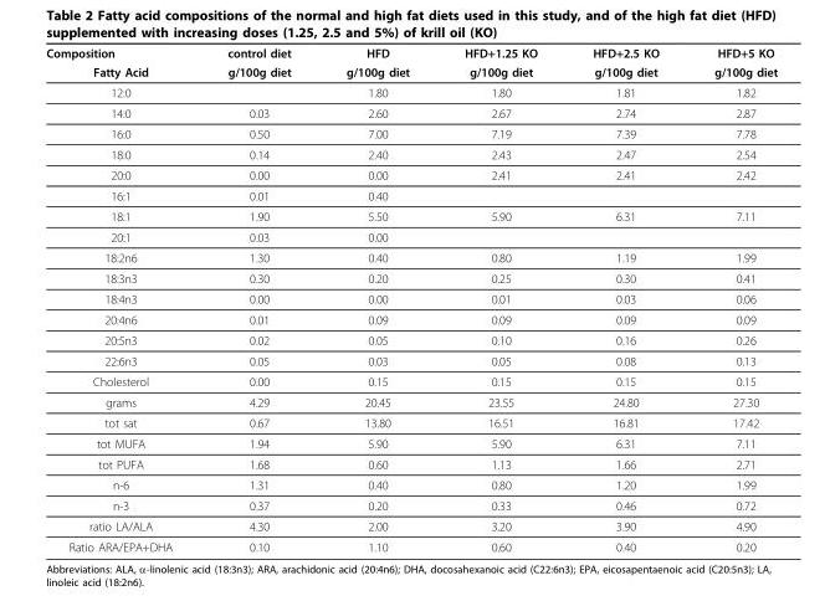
<table><thead><tr><td rowspan="2">Composition Fatty Acid</td><td rowspan="2">control diet g/100g diet</td><td rowspan="2">HFD g/100g diet</td><td rowspan="2">HFD+1.25 KO g/100g diet</td><td rowspan="2">HFD+2.5 KO g/100g diet</td><td rowspan="2">HFD+5 KO g/100g diet</td></tr><tr></tr></thead><tbody><tr><td>12:0</td><td></td><td>1.80</td><td>1.80</td><td>1.81</td><td>1.82</td></tr><tr><td>14:0</td><td>0.03</td><td>2.60</td><td>2.67</td><td>2.74</td><td>2.87</td></tr><tr><td>16:0</td><td>0.50</td><td>7.00</td><td>7.19</td><td>7.39</td><td>7.78</td></tr><tr><td>18:0</td><td>0.14</td><td>2.40</td><td>2.43</td><td>2.47</td><td>2.54</td></tr><tr><td>20:0</td><td>0.00</td><td>0.00</td><td>2.41</td><td>2.41</td><td>2.42</td></tr><tr><td>16:1</td><td>0.01</td><td>0.40</td><td></td><td></td><td></td></tr><tr><td>18:1</td><td>1.90</td><td>5.50</td><td>5.90</td><td>6.31</td><td>7.11</td></tr><tr><td>20:1</td><td>0.03</td><td>0.00</td><td></td><td></td><td></td></tr><tr><td>18:2n6</td><td>1.30</td><td>0.40</td><td>0.80</td><td>1.19</td><td>1.99</td></tr><tr><td>18:3n3</td><td>0.30</td><td>0.20</td><td>0.25</td><td>0.30</td><td>0.41</td></tr><tr><td>18:4n3</td><td>0.00</td><td>0.00</td><td>0.01</td><td>0.03</td><td>0.06</td></tr><tr><td>20:4n6</td><td>0.01</td><td>0.09</td><td>0.09</td><td>0.09</td><td>0.09</td></tr><tr><td>20:5n3</td><td>0.02</td><td>0.05</td><td>0.10</td><td>0.16</td><td>0.26</td></tr><tr><td>22:6n3</td><td>0.05</td><td>0.03</td><td>0.05</td><td>0.08</td><td>0.13</td></tr><tr><td>Cholesterol</td><td>0.00</td><td>0.15</td><td>0.15</td><td>0.15</td><td>0.15</td></tr><tr><td>grams</td><td>4.29</td><td>20.45</td><td>23.55</td><td>24.80</td><td>27.30</td></tr><tr><td>tot sat</td><td>0.67</td><td>13.80</td><td>16.51</td><td>16.81</td><td>17.42</td></tr><tr><td>tot MUFA</td><td>1.94</td><td>5.90</td><td>5.90</td><td>6.31</td><td>7.11</td></tr><tr><td>tot PUFA</td><td>1.68</td><td>0.60</td><td>1.13</td><td>1.66</td><td>2.71</td></tr><tr><td>n-6</td><td>1.31</td><td>0.40</td><td>0.80</td><td>1.20</td><td>1.99</td></tr><tr><td>n-3</td><td>0.37</td><td>0.20</td><td>0.33</td><td>0.46</td><td>0.72</td></tr><tr><td>ratio LA/ALA</td><td>4.30</td><td>2.00</td><td>3.20</td><td>3.90</td><td>4.90</td></tr><tr><td>Ratio ARA/EPA+DHA</td><td>0.10</td><td>1.10</td><td>0.60</td><td>0.40</td><td>0.20</td></tr></tbody></table>